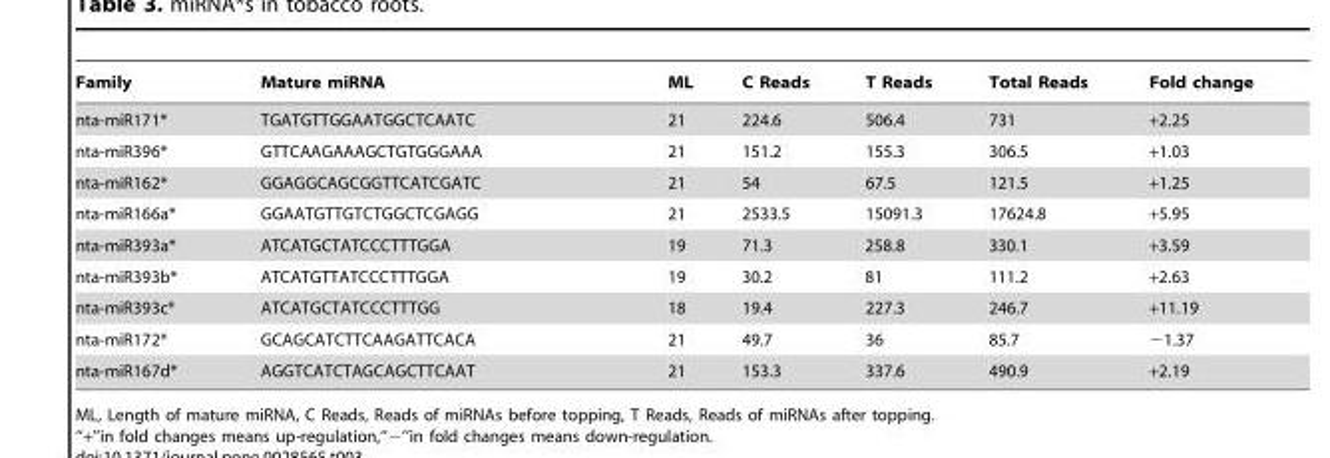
<table><thead><tr><td>Family</td><td>Mature miRNA</td><td>ML</td><td>C Reads</td><td>T Reads</td><td>Total Reads</td><td>Fold change</td></tr></thead><tbody><tr><td>nta-miR171*</td><td>TGATGTTGGAATGGCTCAATC</td><td>21</td><td>224.6</td><td>506.4</td><td>731</td><td>+2.25</td></tr><tr><td>nta-miR396*</td><td>GTTCAAGAAAGCTGTGGGAAA</td><td>21</td><td>151.2</td><td>155.3</td><td>306.5</td><td>+1.03</td></tr><tr><td>nta-miR162*</td><td>GGAGGCAGCGGTTCATCGATC</td><td>21</td><td>54</td><td>67.5</td><td>121.5</td><td>+1.25</td></tr><tr><td>nta-miR166a*</td><td>GGAATGTTGTCTGGCTCGAGG</td><td>21</td><td>2533.5</td><td>15091.3</td><td>17624.8</td><td>+5.95</td></tr><tr><td>nta-miR393a*</td><td>ATCATGCTATCCCTTTGGA</td><td>19</td><td>71.3</td><td>258.8</td><td>330.1</td><td>+3.59</td></tr><tr><td>nta-miR393b*</td><td>ATCATGTTATCCCTTTGGA</td><td>19</td><td>30.2</td><td>81</td><td>111.2</td><td>+2.63</td></tr><tr><td>nta-miR393c*</td><td>ATCATGCTATCCCTTTGG</td><td>18</td><td>19.4</td><td>227.3</td><td>246.7</td><td>+11.19</td></tr><tr><td>nta-miR172*</td><td>GCAGCATCTTCAAGATTCACA</td><td>21</td><td>49.7</td><td>36</td><td>85.7</td><td>−1.37</td></tr><tr><td>nta-miR167d*</td><td>AGGTCATCTAGCAGCTTCAAT</td><td>21</td><td>153.3</td><td>337.6</td><td>490.9</td><td>+2.19</td></tr></tbody></table>